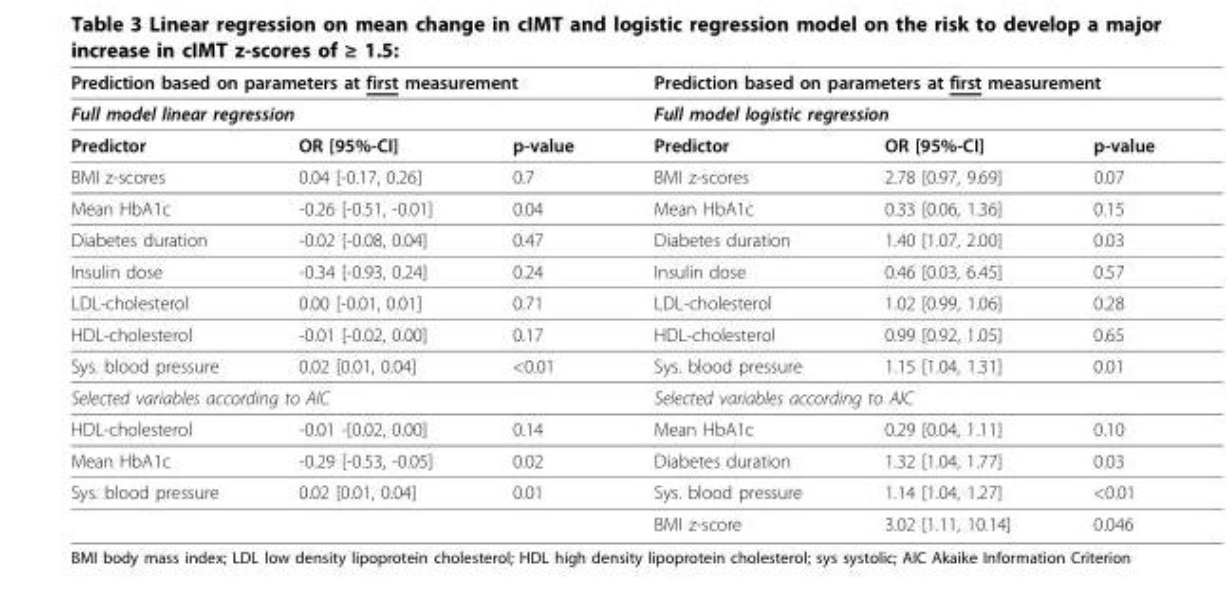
<table><thead><tr><td rowspan="2" colspan="3">Prediction based on parameters at first measurement Full model linear regression</td><td rowspan="2" colspan="3">Prediction based on parameters at first measurement Full model logistic regression</td></tr><tr></tr><tr><td>Predictor</td><td>OR [95%-CI]</td><td>p-value</td><td>Predictor</td><td>OR [95%-CI]</td><td>p-value</td></tr></thead><tbody><tr><td>BMI z-scores</td><td>0.04 [-0.17, 0.26]</td><td>0.7</td><td>BMI z-scores</td><td>2.78 [0.97, 9.69]</td><td>0.07</td></tr><tr><td>Mean HbA1c</td><td>-0.26 [-0.51, -0.01]</td><td>0.04</td><td>Mean HbA1c</td><td>0.33 [0.06, 1.36]</td><td>0.15</td></tr><tr><td>Diabetes duration</td><td>-0.02 [-0.08, 0.04]</td><td>0.47</td><td>Diabetes duration</td><td>1.40 [1.07, 2.00]</td><td>0.03</td></tr><tr><td>Insulin dose</td><td>-0.34 [-0.93, 0.24]</td><td>0.24</td><td>Insulin dose</td><td>0.46 [0.03, 6.45]</td><td>0.57</td></tr><tr><td>LDL-cholesterol</td><td>0.00 [-0.01, 0.01]</td><td>0.71</td><td>LDL-cholesterol</td><td>1.02 [0.99, 1.06]</td><td>0.28</td></tr><tr><td>HDL-cholesterol</td><td>-0.01 [-0.02, 0.00]</td><td>0.17</td><td>HDL-cholesterol</td><td>0.99 [0.92, 1.05]</td><td>0.65</td></tr><tr><td>Sys. blood pressure</td><td>0.02 [0.01, 0.04]</td><td>&lt;0.01</td><td>Sys. blood pressure</td><td>1.15 [1.04, 1.31]</td><td>0.01</td></tr><tr><td colspan="3">Selected variables according to AIC</td><td colspan="3">Selected variables according to AIC</td></tr><tr><td>HDL-cholesterol</td><td>-0.01 -[0.02, 0.00]</td><td>0.14</td><td>Mean HbA1c</td><td>0.29 [0.04, 1.11]</td><td>0.10</td></tr><tr><td>Mean HbA1c</td><td>-0.29 [-0.53, -0.05]</td><td>0.02</td><td>Diabetes duration</td><td>1.32 [1.04, 1.77]</td><td>0.03</td></tr><tr><td rowspan="2">Sys. blood pressure</td><td>0.02 [0.01, 0.04]</td><td>0.01</td><td>Sys. blood pressure</td><td>1.14 [1.04, 1.27]</td><td>&lt;0.01</td></tr><tr><td></td><td></td><td>BMI z-score</td><td>3.02 [1.11, 10.14]</td><td>0.046</td></tr></tbody></table>